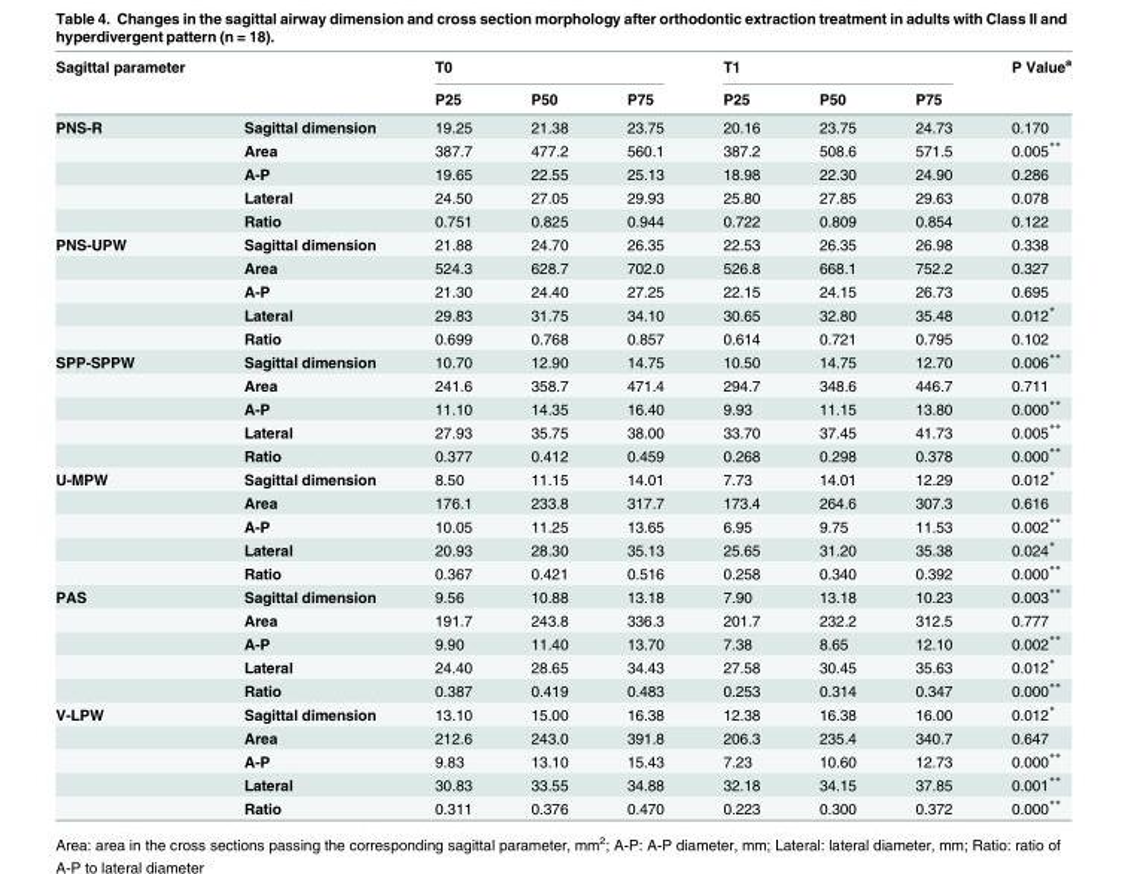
<table><thead><tr><td rowspan="2">Sagittal parameter</td><td rowspan="2"></td><td colspan="3">T0</td><td colspan="3">T1</td><td rowspan="2">P Value<sup>a</sup></td></tr><tr><td>P25</td><td>P50</td><td>P75</td><td>P25</td><td>P50</td><td>P75</td></tr></thead><tbody><tr><td rowspan="5">PNS-R</td><td>Sagittal dimension</td><td>19.25</td><td>21.38</td><td>23.75</td><td>20.16</td><td>23.75</td><td>24.73</td><td>0.170</td></tr><tr><td>Area</td><td>387.7</td><td>477.2</td><td>560.1</td><td>387.2</td><td>508.6</td><td>571.5</td><td>0.005**</td></tr><tr><td>A-P</td><td>19.65</td><td>22.55</td><td>25.13</td><td>18.98</td><td>22.30</td><td>24.90</td><td>0.286</td></tr><tr><td>Lateral</td><td>24.50</td><td>27.05</td><td>29.93</td><td>25.80</td><td>27.85</td><td>29.63</td><td>0.078</td></tr><tr><td>Ratio</td><td>0.751</td><td>0.825</td><td>0.944</td><td>0.722</td><td>0.809</td><td>0.854</td><td>0.122</td></tr><tr><td rowspan="5">PNS-UPW</td><td>Sagittal dimension</td><td>21.88</td><td>24.70</td><td>26.35</td><td>22.53</td><td>26.35</td><td>26.98</td><td>0.338</td></tr><tr><td>Area</td><td>524.3</td><td>628.7</td><td>702.0</td><td>526.8</td><td>668.1</td><td>752.2</td><td>0.327</td></tr><tr><td>A-P</td><td>21.30</td><td>24.40</td><td>27.25</td><td>22.15</td><td>24.15</td><td>26.73</td><td>0.695</td></tr><tr><td>Lateral</td><td>29.83</td><td>31.75</td><td>34.10</td><td>30.65</td><td>32.80</td><td>35.48</td><td>0.012*</td></tr><tr><td>Ratio</td><td>0.699</td><td>0.768</td><td>0.857</td><td>0.614</td><td>0.721</td><td>0.795</td><td>0.102</td></tr><tr><td rowspan="5">SPP-SPPW</td><td>Sagittal dimension</td><td>10.70</td><td>12.90</td><td>14.75</td><td>10.50</td><td>14.75</td><td>12.70</td><td>0.006**</td></tr><tr><td>Area</td><td>241.6</td><td>358.7</td><td>471.4</td><td>294.7</td><td>348.6</td><td>446.7</td><td>0.711</td></tr><tr><td>A-P</td><td>11.10</td><td>14.35</td><td>16.40</td><td>9.93</td><td>11.15</td><td>13.80</td><td>0.000**</td></tr><tr><td>Lateral</td><td>27.93</td><td>35.75</td><td>38.00</td><td>33.70</td><td>37.45</td><td>41.73</td><td>0.005**</td></tr><tr><td>Ratio</td><td>0.377</td><td>0.412</td><td>0.459</td><td>0.268</td><td>0.298</td><td>0.378</td><td>0.000**</td></tr><tr><td rowspan="5">U-MPW</td><td>Sagittal dimension</td><td>8.50</td><td>11.15</td><td>14.01</td><td>7.73</td><td>14.01</td><td>12.29</td><td>0.012*</td></tr><tr><td>Area</td><td>176.1</td><td>233.8</td><td>317.7</td><td>173.4</td><td>264.6</td><td>307.3</td><td>0.616</td></tr><tr><td>A-P</td><td>10.05</td><td>11.25</td><td>13.65</td><td>6.95</td><td>9.75</td><td>11.53</td><td>0.002**</td></tr><tr><td>Lateral</td><td>20.93</td><td>28.30</td><td>35.13</td><td>25.65</td><td>31.20</td><td>35.38</td><td>0.024*</td></tr><tr><td>Ratio</td><td>0.367</td><td>0.421</td><td>0.516</td><td>0.258</td><td>0.340</td><td>0.392</td><td>0.000**</td></tr><tr><td rowspan="5">PAS</td><td>Sagittal dimension</td><td>9.56</td><td>10.88</td><td>13.18</td><td>7.90</td><td>13.18</td><td>10.23</td><td>0.003**</td></tr><tr><td>Area</td><td>191.7</td><td>243.8</td><td>336.3</td><td>201.7</td><td>232.2</td><td>312.5</td><td>0.777</td></tr><tr><td>A-P</td><td>9.90</td><td>11.40</td><td>13.70</td><td>7.38</td><td>8.65</td><td>12.10</td><td>0.002**</td></tr><tr><td>Lateral</td><td>24.40</td><td>28.65</td><td>34.43</td><td>27.58</td><td>30.45</td><td>35.63</td><td>0.012*</td></tr><tr><td>Ratio</td><td>0.387</td><td>0.419</td><td>0.483</td><td>0.253</td><td>0.314</td><td>0.347</td><td>0.000**</td></tr><tr><td rowspan="5">V-LPW</td><td>Sagittal dimension</td><td>13.10</td><td>15.00</td><td>16.38</td><td>12.38</td><td>16.38</td><td>16.00</td><td>0.012*</td></tr><tr><td>Area</td><td>212.6</td><td>243.0</td><td>391.8</td><td>206.3</td><td>235.4</td><td>340.7</td><td>0.647</td></tr><tr><td>A-P</td><td>9.83</td><td>13.10</td><td>15.43</td><td>7.23</td><td>10.60</td><td>12.73</td><td>0.000**</td></tr><tr><td>Lateral</td><td>30.83</td><td>33.55</td><td>34.88</td><td>32.18</td><td>34.15</td><td>37.85</td><td>0.001**</td></tr><tr><td>Ratio</td><td>0.311</td><td>0.376</td><td>0.470</td><td>0.223</td><td>0.300</td><td>0.372</td><td>0.000**</td></tr></tbody></table>